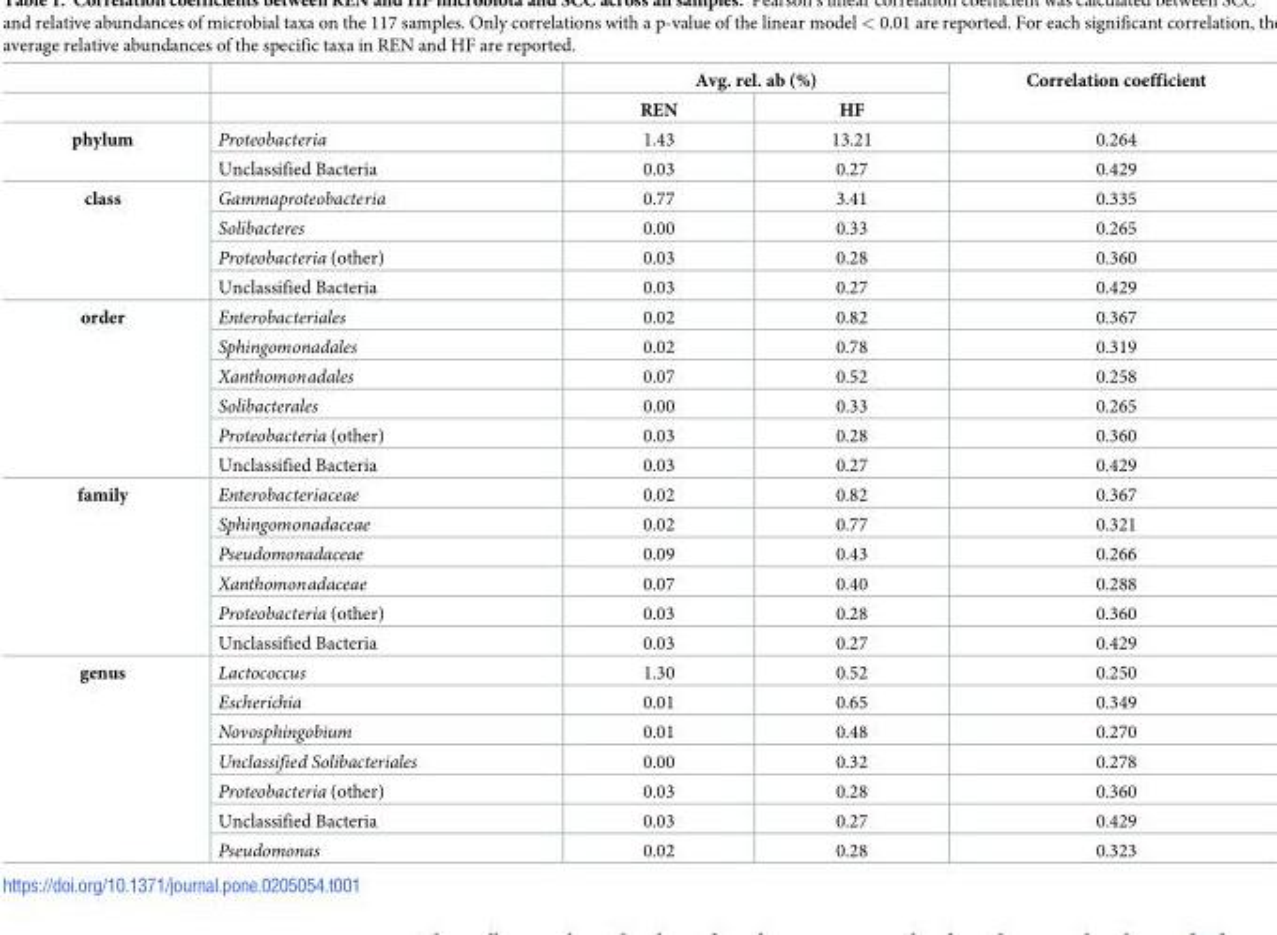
<table><thead><tr><td rowspan="2"></td><td rowspan="2"></td><td colspan="2">Avg. rel. ab (%)</td><td rowspan="2">Correlation coefficient</td></tr><tr><td>REN</td><td>HF</td></tr></thead><tbody><tr><td rowspan="2">phylum</td><td>Proteobacteria</td><td>1.43</td><td>13.21</td><td>0.264</td></tr><tr><td>Unclassified Bacteria</td><td>0.03</td><td>0.27</td><td>0.429</td></tr><tr><td rowspan="4">class</td><td>Gammaproteobacteria</td><td>0.77</td><td>3.41</td><td>0.335</td></tr><tr><td>Solibacteres</td><td>0.00</td><td>0.33</td><td>0.265</td></tr><tr><td>Proteobacteria (other)</td><td>0.03</td><td>0.28</td><td>0.360</td></tr><tr><td>Unclassified Bacteria</td><td>0.03</td><td>0.27</td><td>0.429</td></tr><tr><td rowspan="6">order</td><td>Enterobacteriales</td><td>0.02</td><td>0.82</td><td>0.367</td></tr><tr><td>Sphingomonadales</td><td>0.02</td><td>0.78</td><td>0.319</td></tr><tr><td>Xanthomonadales</td><td>0.07</td><td>0.52</td><td>0.258</td></tr><tr><td>Solibacterales</td><td>0.00</td><td>0.33</td><td>0.265</td></tr><tr><td>Proteobacteria (other)</td><td>0.03</td><td>0.28</td><td>0.360</td></tr><tr><td>Unclassified Bacteria</td><td>0.03</td><td>0.27</td><td>0.429</td></tr><tr><td rowspan="6">family</td><td>Enterobacteriaceae</td><td>0.02</td><td>0.82</td><td>0.367</td></tr><tr><td>Sphingomonadaceae</td><td>0.02</td><td>0.77</td><td>0.321</td></tr><tr><td>Pseudomonadaceae</td><td>0.09</td><td>0.43</td><td>0.266</td></tr><tr><td>Xanthomonadaceae</td><td>0.07</td><td>0.40</td><td>0.288</td></tr><tr><td>Proteobacteria (other)</td><td>0.03</td><td>0.28</td><td>0.360</td></tr><tr><td>Unclassified Bacteria</td><td>0.03</td><td>0.27</td><td>0.429</td></tr><tr><td rowspan="7">genus</td><td>Lactococcus</td><td>1.30</td><td>0.52</td><td>0.250</td></tr><tr><td>Escherichia</td><td>0.01</td><td>0.65</td><td>0.349</td></tr><tr><td>Novosphingobium</td><td>0.01</td><td>0.48</td><td>0.270</td></tr><tr><td>Unclassified Solibacteriales</td><td>0.00</td><td>0.32</td><td>0.278</td></tr><tr><td>Proteobacteria (other)</td><td>0.03</td><td>0.28</td><td>0.360</td></tr><tr><td>Unclassified Bacteria</td><td>0.03</td><td>0.27</td><td>0.429</td></tr><tr><td>Pseudomonas</td><td>0.02</td><td>0.28</td><td>0.323</td></tr></tbody></table>